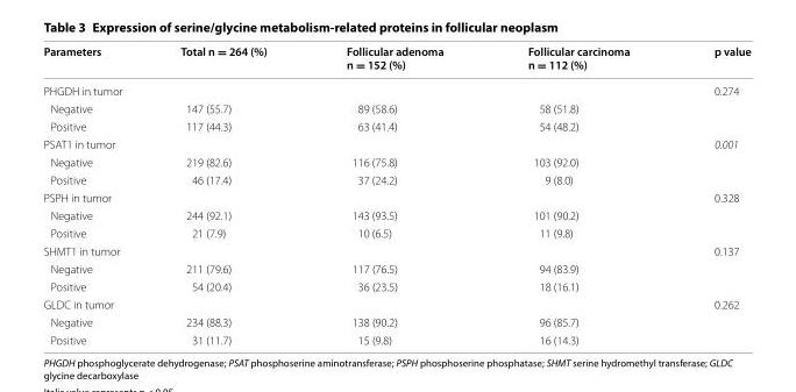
<table><thead><tr><td>Parameters</td><td>Total n = 264 (%)</td><td>Follicular adenoma n = 152 (%)</td><td>Follicular carcinoma n = 112 (%)</td><td>p value</td></tr></thead><tbody><tr><td colspan="4">PHGDH in tumor</td><td>0.274</td></tr><tr><td>Negative</td><td>147 (55.7)</td><td>89 (58.6)</td><td>58 (51.8)</td><td></td></tr><tr><td>Positive</td><td>117 (44.3)</td><td>63 (41.4)</td><td>54 (48.2)</td><td></td></tr><tr><td colspan="4">PSAT1 in tumor</td><td>0.001</td></tr><tr><td>Negative</td><td>219 (82.6)</td><td>116 (75.8)</td><td>103 (92.0)</td><td></td></tr><tr><td>Positive</td><td>46 (17.4)</td><td>37 (24.2)</td><td>9 (8.0)</td><td></td></tr><tr><td colspan="4">PSPH in tumor</td><td>0.328</td></tr><tr><td>Negative</td><td>244 (92.1)</td><td>143 (93.5)</td><td>101 (90.2)</td><td></td></tr><tr><td>Positive</td><td>21 (7.9)</td><td>10 (6.5)</td><td>11 (9.8)</td><td></td></tr><tr><td colspan="4">SHMT1 in tumor</td><td>0.137</td></tr><tr><td>Negative</td><td>211 (79.6)</td><td>117 (76.5)</td><td>94 (83.9)</td><td></td></tr><tr><td>Positive</td><td>54 (20.4)</td><td>36 (23.5)</td><td>18 (16.1)</td><td></td></tr><tr><td colspan="4">GLDC in tumor</td><td>0.262</td></tr><tr><td>Negative</td><td>234 (88.3)</td><td>138 (90.2)</td><td>96 (85.7)</td><td></td></tr><tr><td>Positive</td><td>31 (11.7)</td><td>15 (9.8)</td><td>16 (14.3)</td><td></td></tr></tbody></table>